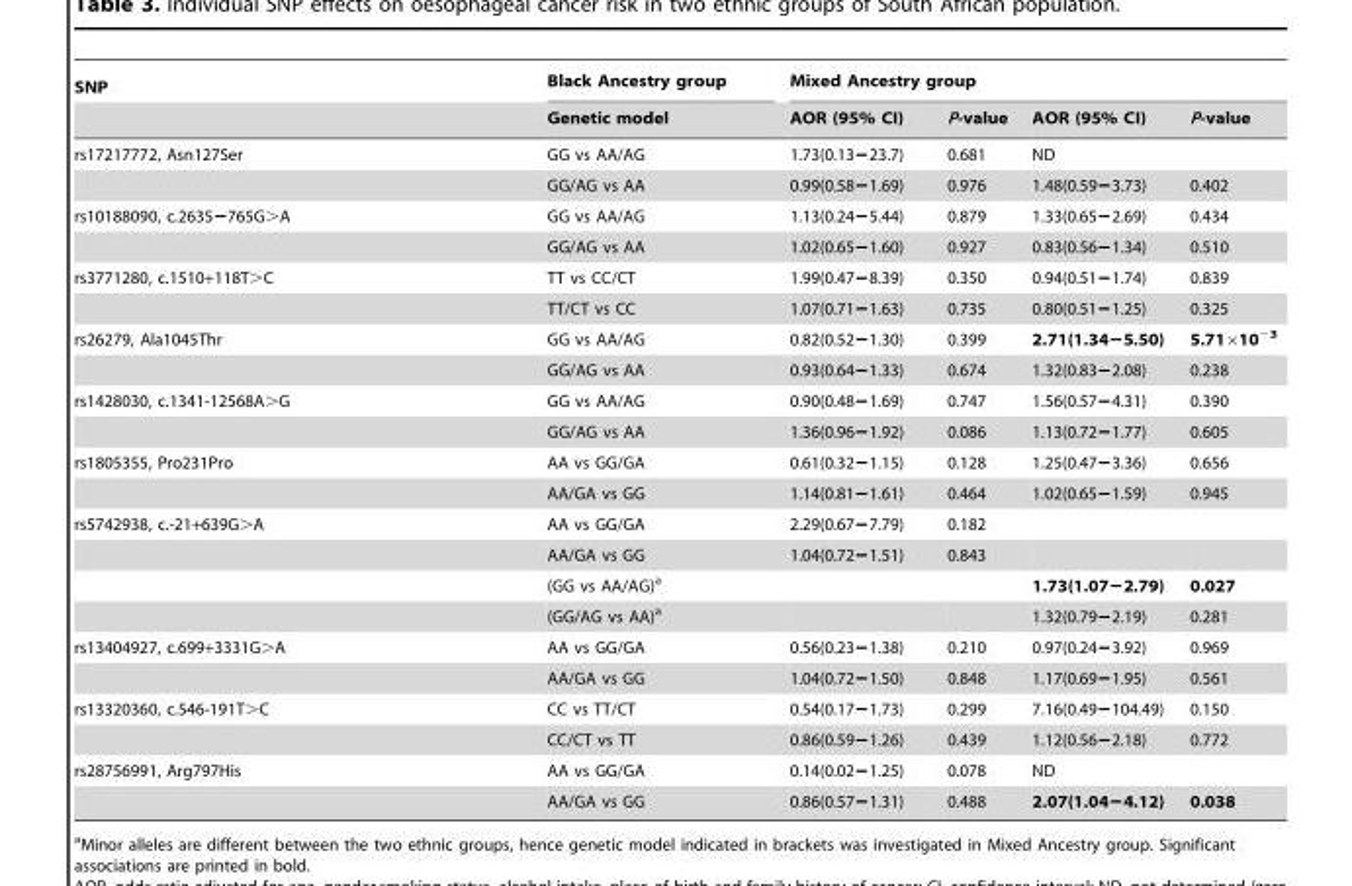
<table><thead><tr><td rowspan="2">SNP</td><td rowspan="2">Black Ancestry group Genetic model</td><td colspan="4">Mixed Ancestry group</td></tr><tr><td>AOR (95% CI)</td><td>P-value</td><td>AOR (95% CI)</td><td>P-value</td></tr></thead><tbody><tr><td rowspan="2">rs17217772, Asn127Ser</td><td>GG vs AA/AG</td><td>1.73(0.13−23.7)</td><td>0.681</td><td>ND</td><td></td></tr><tr><td>GG/AG vs AA</td><td>0.99(0.58−1.69)</td><td>0.976</td><td>1.48(0.59−3.73)</td><td>0.402</td></tr><tr><td rowspan="2">rs10188090, c.2635−765G&gt;A</td><td>GG vs AA/AG</td><td>1.13(0.24−5.44)</td><td>0.879</td><td>1.33(0.65−2.69)</td><td>0.434</td></tr><tr><td>GG/AG vs AA</td><td>1.02(0.65−1.60)</td><td>0.927</td><td>0.83(0.56−1.34)</td><td>0.510</td></tr><tr><td rowspan="2">rs3771280, c.1510+118T&gt;C</td><td>TT vs CC/CT</td><td>1.99(0.47−8.39)</td><td>0.350</td><td>0.94(0.51−1.74)</td><td>0.839</td></tr><tr><td>TT/CT vs CC</td><td>1.07(0.71−1.63)</td><td>0.735</td><td>0.80(0.51−1.25)</td><td>0.325</td></tr><tr><td rowspan="2">rs26279, Ala1045Thr</td><td>GG vs AA/AG</td><td>0.82(0.52−1.30)</td><td>0.399</td><td>2.71(1.34−5.50)</td><td>5.71×10<sup>−3</sup></td></tr><tr><td>GG/AG vs AA</td><td>0.93(0.64−1.33)</td><td>0.674</td><td>1.32(0.83−2.08)</td><td>0.238</td></tr><tr><td rowspan="2">rs1428030, c.1341-12568A&gt;G</td><td>GG vs AA/AG</td><td>0.90(0.48−1.69)</td><td>0.747</td><td>1.56(0.57−4.31)</td><td>0.390</td></tr><tr><td>GG/AG vs AA</td><td>1.36(0.96−1.92)</td><td>0.086</td><td>1.13(0.72−1.77)</td><td>0.605</td></tr><tr><td rowspan="2">rs1805355, Pro231Pro</td><td>AA vs GG/GA</td><td>0.61(0.32−1.15)</td><td>0.128</td><td>1.25(0.47−3.36)</td><td>0.656</td></tr><tr><td>AA/GA vs GG</td><td>1.14(0.81−1.61)</td><td>0.464</td><td>1.02(0.65−1.59)</td><td>0.945</td></tr><tr><td rowspan="4">rs5742938, c.-21+639G&gt;A</td><td>AA vs GG/GA</td><td>2.29(0.67−7.79)</td><td>0.182</td><td></td><td></td></tr><tr><td>AA/GA vs GG</td><td>1.04(0.72−1.51)</td><td>0.843</td><td></td><td></td></tr><tr><td>(GG vs AA/AG)<sup>a</sup></td><td></td><td></td><td>1.73(1.07−2.79)</td><td>0.027</td></tr><tr><td>(GG/AG vs AA)<sup>a</sup></td><td></td><td></td><td>1.32(0.79−2.19)</td><td>0.281</td></tr><tr><td rowspan="2">rs13404927, c.699+3331G&gt;A</td><td>AA vs GG/GA</td><td>0.56(0.23−1.38)</td><td>0.210</td><td>0.97(0.24−3.92)</td><td>0.969</td></tr><tr><td>AA/GA vs GG</td><td>1.04(0.72−1.50)</td><td>0.848</td><td>1.17(0.69−1.95)</td><td>0.561</td></tr><tr><td rowspan="2">rs13320360, c.546-191T&gt;C</td><td>CC vs TT/CT</td><td>0.54(0.17−1.73)</td><td>0.299</td><td>7.16(0.49−104.49)</td><td>0.150</td></tr><tr><td>CC/CT vs TT</td><td>0.86(0.59−1.26)</td><td>0.439</td><td>1.12(0.56−2.18)</td><td>0.772</td></tr><tr><td rowspan="2">rs28756991, Arg797His</td><td>AA vs GG/GA</td><td>0.14(0.02−1.25)</td><td>0.078</td><td>ND</td><td></td></tr><tr><td>AA/GA vs GG</td><td>0.86(0.57−1.31)</td><td>0.488</td><td>2.07(1.04−4.12)</td><td>0.038</td></tr></tbody></table>